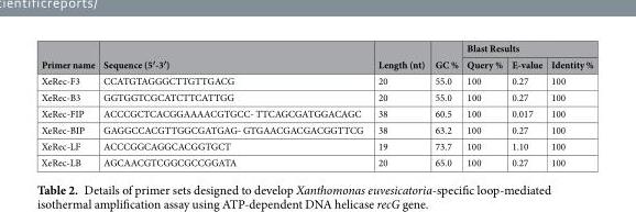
<table><thead><tr><td rowspan="2">Primer name</td><td rowspan="2">Sequence (5′-3′)</td><td rowspan="2">Length (nt)</td><td rowspan="2">GC %</td><td colspan="3">Blast Results</td></tr><tr><td>Query %</td><td>E-value</td><td>Identity %</td></tr></thead><tbody><tr><td>XeRec-F3</td><td>CCATGTAGGGCTTGTTGACG</td><td>20</td><td>55.0</td><td>100</td><td>0.27</td><td>100</td></tr><tr><td>XeRec-B3</td><td>GGTGGTCGCATCTTCATTGG</td><td>20</td><td>55.0</td><td>100</td><td>0.27</td><td>100</td></tr><tr><td>XeRec-FIP</td><td>ACCCGCTCACGGAAAACGTGCC- TTCAGCGATGGACAGC</td><td>38</td><td>60.5</td><td>100</td><td>0.017</td><td>100</td></tr><tr><td>XeRec-BIP</td><td>GAGGCCACGTTGGCGATGAG- GTGAACGACGACGGTTCG</td><td>38</td><td>63.2</td><td>100</td><td>0.27</td><td>100</td></tr><tr><td>XeRec-LF</td><td>ACCCGGCAGGCACGGTGCT</td><td>19</td><td>73.7</td><td>100</td><td>1.10</td><td>100</td></tr><tr><td>XeRec-LB</td><td>AGCAACGTCGGCGCCGGATA</td><td>20</td><td>65.0</td><td>100</td><td>0.27</td><td>100</td></tr></tbody></table>